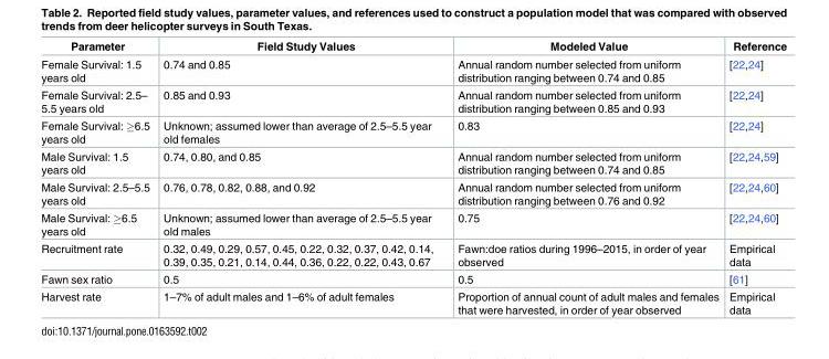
<table><thead><tr><td>Parameter</td><td>Field Study Values</td><td>Modeled Value</td><td>Reference</td></tr></thead><tbody><tr><td>Female Survival: 1.5 years old</td><td>0.74 and 0.85</td><td>Annual random number selected from uniform distribution ranging between 0.74 and 0.85</td><td>[22,24]</td></tr><tr><td>Female Survival: 2.5– 5.5 years old</td><td>0.85 and 0.93</td><td>Annual random number selected from uniform distribution ranging between 0.85 and 0.93</td><td>[22,24]</td></tr><tr><td>Female Survival: ≥6.5 years old</td><td>Unknown; assumed lower than average of 2.5–5.5 year old females</td><td>0.83</td><td>[22,24]</td></tr><tr><td>Male Survival: 1.5 years old</td><td>0.74, 0.80, and 0.85</td><td>Annual random number selected from uniform distribution ranging between 0.74 and 0.85</td><td>[22,24,59]</td></tr><tr><td>Male Survival: 2.5–5.5 years old</td><td>0.76, 0.78, 0.82, 0.88, and 0.92</td><td>Annual random number selected from uniform distribution ranging between 0.76 and 0.92</td><td>[22,24,60]</td></tr><tr><td>Male Survival: ≥6.5 years old</td><td>Unknown; assumed lower than average of 2.5–5.5 year old males</td><td>0.75</td><td>[22,24,60]</td></tr><tr><td>Recruitment rate</td><td>0.32, 0.49, 0.29, 0.57, 0.45, 0.22, 0.32, 0.37, 0.42, 0.14, 0.39, 0.35, 0.21, 0.14, 0.44, 0.36, 0.22, 0.22, 0.43, 0.67</td><td>Fawn:doe ratios during 1996–2015, in order of year observed</td><td>Empirical data</td></tr><tr><td>Fawn sex ratio</td><td>0.5</td><td>0.5</td><td>[61]</td></tr><tr><td>Harvest rate</td><td>1–7% of adult males and 1–6% of adult females</td><td>Proportion of annual count of adult males and females that were harvested, in order of year observed</td><td>Empirical data</td></tr></tbody></table>